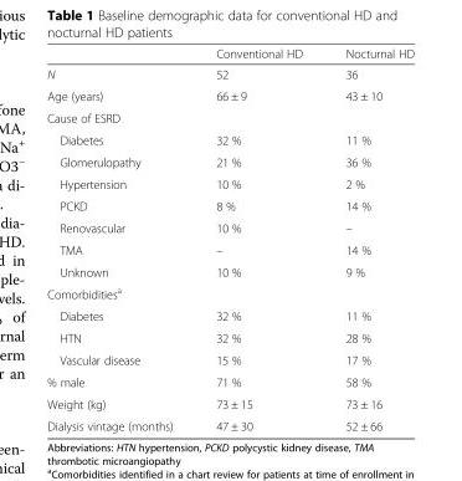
<table><thead><tr><td></td><td>Conventional HD</td><td>Nocturnal HD</td></tr></thead><tbody><tr><td>N</td><td>52</td><td>36</td></tr><tr><td>Age (years)</td><td>66 ± 9</td><td>43 ± 10</td></tr><tr><td colspan="3">Cause of ESRD</td></tr><tr><td>Diabetes</td><td>32 %</td><td>11 %</td></tr><tr><td>Glomerulopathy</td><td>21 %</td><td>36 %</td></tr><tr><td>Hypertension</td><td>10 %</td><td>2 %</td></tr><tr><td>PCKD</td><td>8 %</td><td>14 %</td></tr><tr><td>Renovascular</td><td>10 %</td><td>–</td></tr><tr><td>TMA</td><td>–</td><td>14 %</td></tr><tr><td>Unknown</td><td>10 %</td><td>9 %</td></tr><tr><td colspan="3">Comorbidities<sup>a</sup></td></tr><tr><td>Diabetes</td><td>32 %</td><td>11 %</td></tr><tr><td>HTN</td><td>32 %</td><td>28 %</td></tr><tr><td>Vascular disease</td><td>15 %</td><td>17 %</td></tr><tr><td>% male</td><td>71 %</td><td>58 %</td></tr><tr><td>Weight (kg)</td><td>73 ± 15</td><td>73 ± 16</td></tr><tr><td>Dialysis vintage (months)</td><td>47 ± 30</td><td>52 ± 66</td></tr></tbody></table>